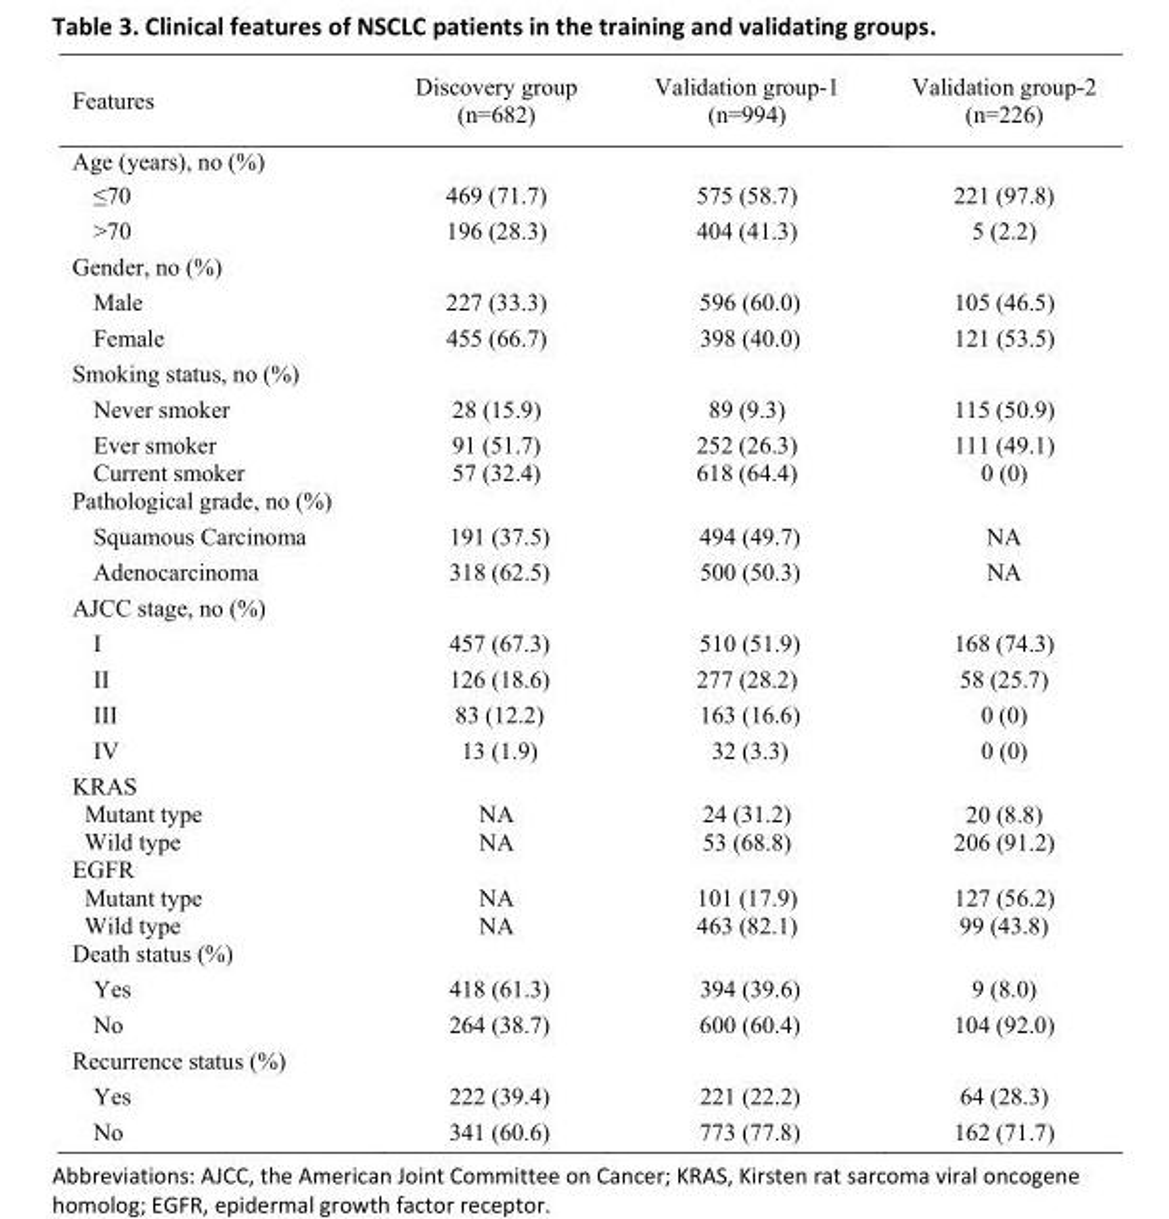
<table><tbody><tr><td>Features</td><td>Discovery group (n=682)</td><td>Validation group-1 (n=994)</td><td>Validation group-2 (n=226)</td></tr><tr><td colspan="4">Age (years), no (%)</td></tr><tr><td>≤70</td><td>469 (71.7)</td><td>575 (58.7)</td><td>221 (97.8)</td></tr><tr><td>&gt;70</td><td>196 (28.3)</td><td>404 (41.3)</td><td>5 (2.2)</td></tr><tr><td colspan="4">Gender, no (%)</td></tr><tr><td>Male</td><td>227 (33.3)</td><td>596 (60.0)</td><td>105 (46.5)</td></tr><tr><td>Female</td><td>455 (66.7)</td><td>398 (40.0)</td><td>121 (53.5)</td></tr><tr><td colspan="4">Smoking status, no (%)</td></tr><tr><td>Never smoker</td><td>28 (15.9)</td><td>89 (9.3)</td><td>115 (50.9)</td></tr><tr><td>Ever smoker Current smoker</td><td>91 (51.7) 57 (32.4)</td><td>252 (26.3) 618 (64.4)</td><td>111 (49.1) 0 (0)</td></tr><tr><td colspan="4">Pathological grade, no (%)</td></tr><tr><td>Squamous Carcinoma</td><td>191 (37.5)</td><td>494 (49.7)</td><td>NA</td></tr><tr><td>Adenocarcinoma</td><td>318 (62.5)</td><td>500 (50.3)</td><td>NA</td></tr><tr><td colspan="4">AJCC stage, no (%)</td></tr><tr><td>I</td><td>457 (67.3)</td><td>510 (51.9)</td><td>168 (74.3)</td></tr><tr><td>II</td><td>126 (18.6)</td><td>277 (28.2)</td><td>58 (25.7)</td></tr><tr><td>III</td><td>83 (12.2)</td><td>163 (16.6)</td><td>0 (0)</td></tr><tr><td>IV</td><td>13 (1.9)</td><td>32 (3.3)</td><td>0 (0)</td></tr><tr><td>KRAS Mutant type Wild type EGFR Mutant type Wild type</td><td>NA NA NA NA</td><td>24 (31.2) 53 (68.8) 101 (17.9) 463 (82.1)</td><td>20 (8.8) 206 (91.2) 127 (56.2) 99 (43.8)</td></tr><tr><td colspan="4">Death status (%)</td></tr><tr><td>Yes</td><td>418 (61.3)</td><td>394 (39.6)</td><td>9 (8.0)</td></tr><tr><td>No</td><td>264 (38.7)</td><td>600 (60.4)</td><td>104 (92.0)</td></tr><tr><td colspan="4">Recurrence status (%)</td></tr><tr><td>Yes</td><td>222 (39.4)</td><td>221 (22.2)</td><td>64 (28.3)</td></tr><tr><td>No</td><td>341 (60.6)</td><td>773 (77.8)</td><td>162 (71.7)</td></tr></tbody></table>